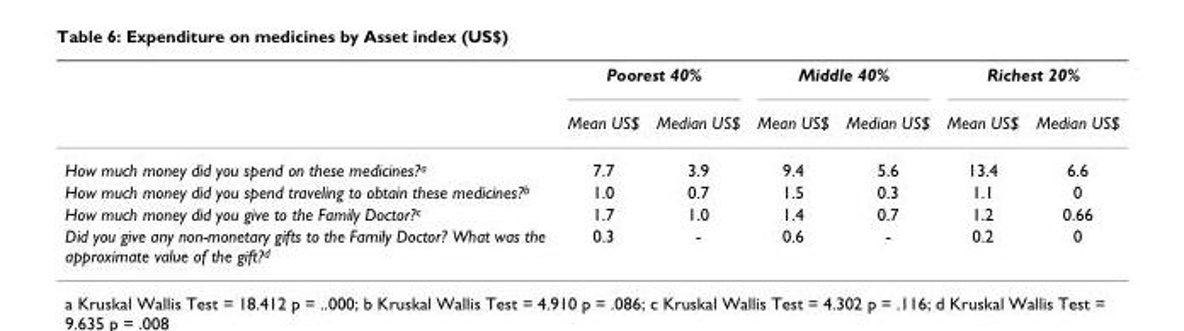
<table><thead><tr><td rowspan="2"></td><td colspan="2">Poorest 40%</td><td colspan="2">Middle 40%</td><td colspan="2">Richest 20%</td></tr><tr><td>Mean US$</td><td>Median US$</td><td>Mean US$</td><td>Median US$</td><td>Mean US$</td><td>Median US$</td></tr></thead><tbody><tr><td>How much money did you spend on these medicines?<sup>a</sup></td><td>7.7</td><td>3.9</td><td>9.4</td><td>5.6</td><td>13.4</td><td>6.6</td></tr><tr><td>How much money did you spend traveling to obtain these medicines?<sup>b</sup></td><td>1.0</td><td>0.7</td><td>1.5</td><td>0.3</td><td>1.1</td><td>0</td></tr><tr><td>How much money did you give to the Family Doctor?<sup>c</sup></td><td>1.7</td><td>1.0</td><td>1.4</td><td>0.7</td><td>1.2</td><td>0.66</td></tr><tr><td>Did you give any non-monetary gifts to the Family Doctor? What was the approximate value of the gift?<sup>d</sup></td><td>0.3</td><td>-</td><td>0.6</td><td>-</td><td>0.2</td><td>0</td></tr></tbody></table>